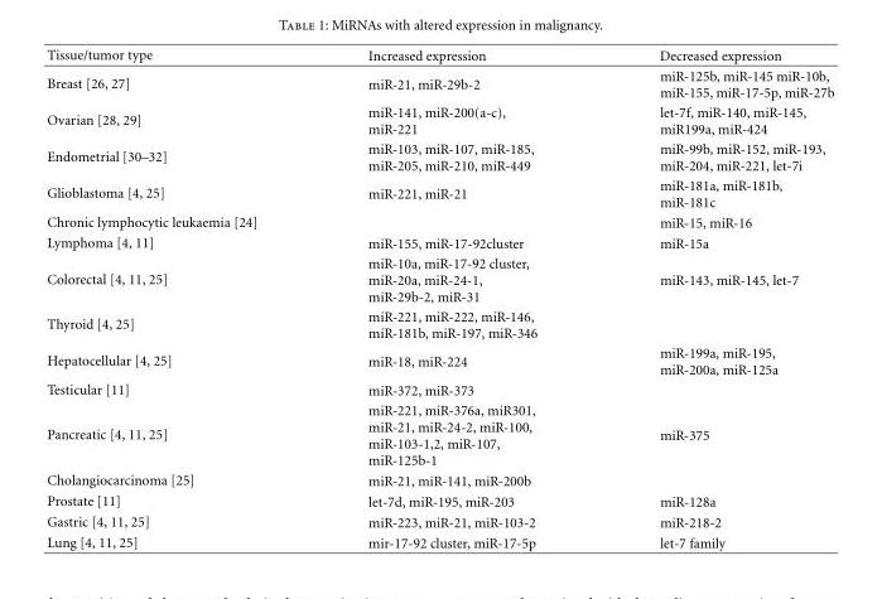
<table><thead><tr><td>Tissue/tumor type</td><td>Increased expression</td><td>Decreased expression</td></tr></thead><tbody><tr><td>Breast [26, 27]</td><td>miR-21, miR-29b-2</td><td>miR-125b, miR-145 miR-10b, miR-155, miR-17-5p, miR-27b</td></tr><tr><td>Ovarian [28, 29]</td><td>miR-141, miR-200(a-c), miR-221</td><td>let-7f, miR-140, miR-145, miR199a, miR-424</td></tr><tr><td>Endometrial [30–32]</td><td>miR-103, miR-107, miR-185, miR-205, miR-210, miR-449</td><td>miR-99b, miR-152, miR-193, miR-204, miR-221, let-7i</td></tr><tr><td>Glioblastoma [4, 25]</td><td>miR-221, miR-21</td><td>miR-181a, miR-181b, miR-181c</td></tr><tr><td>Chronic lymphocytic leukaemia [24]</td><td></td><td>miR-15, miR-16</td></tr><tr><td>Lymphoma [4, 11]</td><td>miR-155, miR-17-92cluster</td><td>miR-15a</td></tr><tr><td>Colorectal [4, 11, 25]</td><td>miR-10a, miR-17-92 cluster, miR-20a, miR-24-1, miR-29b-2, miR-31</td><td>miR-143, miR-145, let-7</td></tr><tr><td>Thyroid [4, 25]</td><td>miR-221, miR-222, miR-146, miR-181b, miR-197, miR-346</td><td></td></tr><tr><td>Hepatocellular [4, 25]</td><td>miR-18, miR-224</td><td>miR-199a, miR-195, miR-200a, miR-125a</td></tr><tr><td>Testicular [11]</td><td>miR-372, miR-373</td><td></td></tr><tr><td>Pancreatic [4, 11, 25]</td><td>miR-221, miR-376a, miR301, miR-21, miR-24-2, miR-100, miR-103-1,2, miR-107, miR-125b-1</td><td>miR-375</td></tr><tr><td>Cholangiocarcinoma [25]</td><td>miR-21, miR-141, miR-200b</td><td></td></tr><tr><td>Prostate [11]</td><td>let-7d, miR-195, miR-203</td><td>miR-128a</td></tr><tr><td>Gastric [4, 11, 25]</td><td>miR-223, miR-21, miR-103-2</td><td>miR-218-2</td></tr><tr><td>Lung [4, 11, 25]</td><td>mir-17-92 cluster, miR-17-5p</td><td>let-7 family</td></tr></tbody></table>